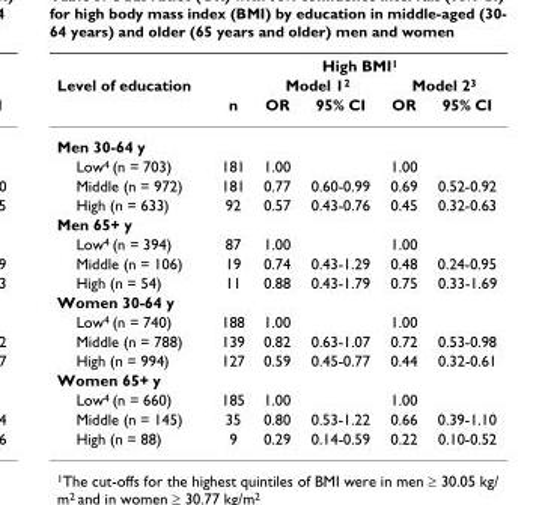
<table><thead><tr><td rowspan="3">Level of education</td><td colspan="5">High BMI<sup>1</sup></td></tr><tr><td rowspan="2">n</td><td colspan="2">Model 1<sup>2</sup></td><td colspan="2">Model 2<sup>3</sup></td></tr><tr><td>OR</td><td>95% CI</td><td>OR</td><td>95% CI</td></tr></thead><tbody><tr><td colspan="6">Men 30-64 y</td></tr><tr><td>Low<sup>4</sup> (n = 703)</td><td>181</td><td>1.00</td><td></td><td>1.00</td><td></td></tr><tr><td>Middle (n = 972)</td><td>181</td><td>0.77</td><td>0.60-0.99</td><td>0.69</td><td>0.52-0.92</td></tr><tr><td>High (n = 633)</td><td>92</td><td>0.57</td><td>0.43-0.76</td><td>0.45</td><td>0.32-0.63</td></tr><tr><td colspan="6">Men 65+ y</td></tr><tr><td>Low<sup>4</sup> (n = 394)</td><td>87</td><td>1.00</td><td></td><td>1.00</td><td></td></tr><tr><td>Middle (n = 106)</td><td>19</td><td>0.74</td><td>0.43-1.29</td><td>0.48</td><td>0.24-0.95</td></tr><tr><td>High (n = 54)</td><td>11</td><td>0.88</td><td>0.43-1.79</td><td>0.75</td><td>0.33-1.69</td></tr><tr><td colspan="6">Women 30-64 y</td></tr><tr><td>Low<sup>4</sup> (n = 740)</td><td>188</td><td>1.00</td><td></td><td>1.00</td><td></td></tr><tr><td>Middle (n = 788)</td><td>139</td><td>0.82</td><td>0.63-1.07</td><td>0.72</td><td>0.53-0.98</td></tr><tr><td>High (n = 994)</td><td>127</td><td>0.59</td><td>0.45-0.77</td><td>0.44</td><td>0.32-0.61</td></tr><tr><td colspan="6">Women 65+ y</td></tr><tr><td>Low<sup>4</sup> (n = 660)</td><td>185</td><td>1.00</td><td></td><td>1.00</td><td></td></tr><tr><td>Middle (n = 145)</td><td>35</td><td>0.80</td><td>0.53-1.22</td><td>0.66</td><td>0.39-1.10</td></tr><tr><td>High (n = 88)</td><td>9</td><td>0.29</td><td>0.14-0.59</td><td>0.22</td><td>0.10-0.52</td></tr></tbody></table>